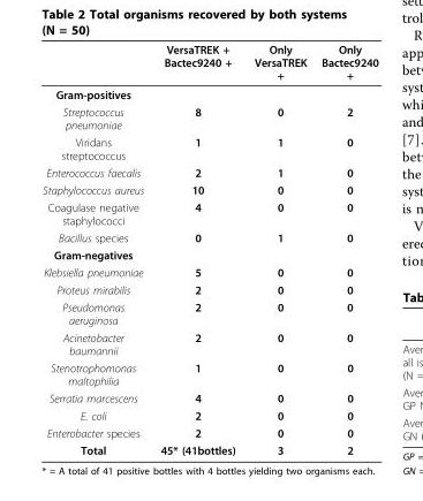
<table><thead><tr><td></td><td>VersaTREK + Bactec9240 +</td><td>Only VersaTREK +</td><td>Only Bactec9240 +</td></tr></thead><tbody><tr><td colspan="4">Gram-positives</td></tr><tr><td>Streptococcus pneumoniae</td><td>8</td><td>0</td><td>2</td></tr><tr><td>Viridans streptococcus</td><td>1</td><td>1</td><td>0</td></tr><tr><td>Enterococcus faecalis</td><td>2</td><td>1</td><td>0</td></tr><tr><td>Staphylococcus aureus</td><td>10</td><td>0</td><td>0</td></tr><tr><td>Coagulase negative staphylococci</td><td>4</td><td>0</td><td>0</td></tr><tr><td>Bacillus species</td><td>0</td><td>1</td><td>0</td></tr><tr><td colspan="4">Gram-negatives</td></tr><tr><td>Klebsiella pneumoniae</td><td>5</td><td>0</td><td>0</td></tr><tr><td>Proteus mirabilis</td><td>2</td><td>0</td><td>0</td></tr><tr><td>Pseudomonas aeruginosa</td><td>2</td><td>0</td><td>0</td></tr><tr><td>Acinetobacter baumannii</td><td>2</td><td>0</td><td>0</td></tr><tr><td>Stenotrophomonas maltophilia</td><td>1</td><td>0</td><td>0</td></tr><tr><td>Serratia marcescens</td><td>4</td><td>0</td><td>0</td></tr><tr><td>E. coli</td><td>2</td><td>0</td><td>0</td></tr><tr><td>Enterobacter species</td><td>2</td><td>0</td><td>0</td></tr><tr><td>Total</td><td>45* (41bottles)</td><td>3</td><td>2</td></tr></tbody></table>